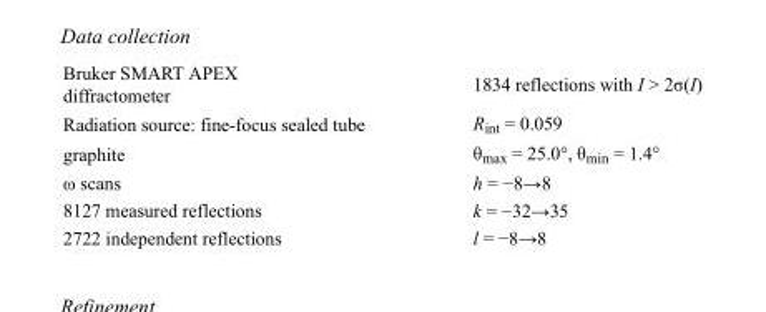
<table><tbody><tr><td>Bruker SMART APEX diffractometer</td><td>1834 reflections with I &gt; 2σ(I)</td></tr><tr><td>Radiation source: fine-focus sealed tube</td><td>R<sub>int</sub> = 0.059</td></tr><tr><td>graphite</td><td>θ<sub>max</sub> = 25.0°, θ<sub>min</sub> = 1.4°</td></tr><tr><td>ω scans</td><td>h = −8→8</td></tr><tr><td>8127 measured reflections</td><td>k = −32→35</td></tr><tr><td>2722 independent reflections</td><td>l = −8→8</td></tr></tbody></table>